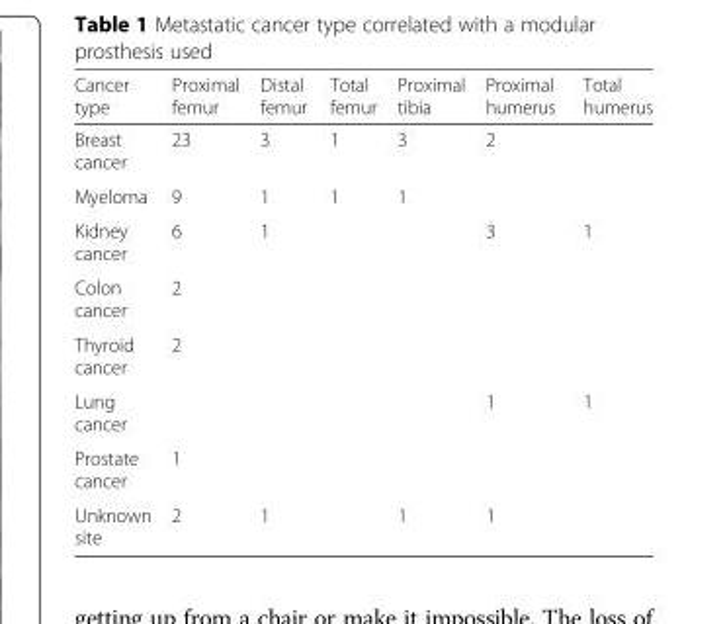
<table><thead><tr><td>Cancer type</td><td>Proximal femur</td><td>Distal femur</td><td>Total femur</td><td>Proximal tibia</td><td>Proximal humerus</td><td>Total humerus</td></tr></thead><tbody><tr><td>Breast cancer</td><td>23</td><td>3</td><td>1</td><td>3</td><td>2</td><td></td></tr><tr><td>Myeloma</td><td>9</td><td>1</td><td>1</td><td>1</td><td></td><td></td></tr><tr><td>Kidney cancer</td><td>6</td><td>1</td><td></td><td></td><td>3</td><td>1</td></tr><tr><td>Colon cancer</td><td>2</td><td></td><td></td><td></td><td></td><td></td></tr><tr><td>Thyroid cancer</td><td>2</td><td></td><td></td><td></td><td></td><td></td></tr><tr><td>Lung cancer</td><td></td><td></td><td></td><td></td><td>1</td><td>1</td></tr><tr><td>Prostate cancer</td><td>1</td><td></td><td></td><td></td><td></td><td></td></tr><tr><td>Unknown site</td><td>2</td><td>1</td><td></td><td>1</td><td>1</td><td></td></tr></tbody></table>